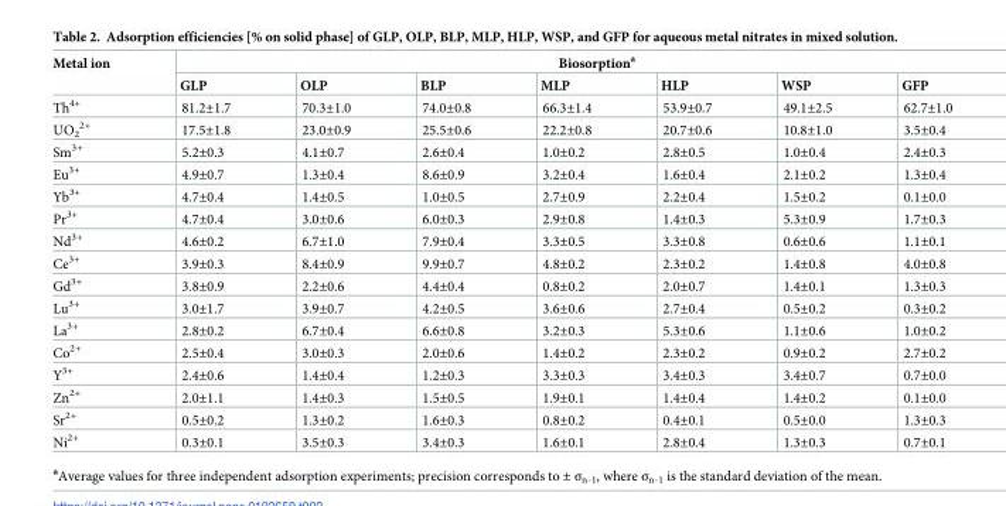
<table><thead><tr><td rowspan="2">Metal ion</td><td colspan="7">Biosorption<sup>a</sup></td></tr><tr><td>GLP</td><td>OLP</td><td>BLP</td><td>MLP</td><td>HLP</td><td>WSP</td><td>GFP</td></tr></thead><tbody><tr><td>Th<sup>4+</sup></td><td>81.2±1.7</td><td>70.3±1.0</td><td>74.0±0.8</td><td>66.3±1.4</td><td>53.9±0.7</td><td>49.1±2.5</td><td>62.7±1.0</td></tr><tr><td>UO<sub>2</sub> <sup>2+</sup></td><td>17.5±1.8</td><td>23.0±0.9</td><td>25.5±0.6</td><td>22.2±0.8</td><td>20.7±0.6</td><td>10.8±1.0</td><td>3.5±0.4</td></tr><tr><td>Sm<sup>3+</sup></td><td>5.2±0.3</td><td>4.1±0.7</td><td>2.6±0.4</td><td>1.0±0.2</td><td>2.8±0.5</td><td>1.0±0.4</td><td>2.4±0.3</td></tr><tr><td>Eu<sup>3+</sup></td><td>4.9±0.7</td><td>1.3±0.4</td><td>8.6±0.9</td><td>3.2±0.4</td><td>1.6±0.4</td><td>2.1±0.2</td><td>1.3±0.4</td></tr><tr><td>Yb<sup>3+</sup></td><td>4.7±0.4</td><td>1.4±0.5</td><td>1.0±0.5</td><td>2.7±0.9</td><td>2.2±0.4</td><td>1.5±0.2</td><td>0.1±0.0</td></tr><tr><td>Pr<sup>3+</sup></td><td>4.7±0.4</td><td>3.0±0.6</td><td>6.0±0.3</td><td>2.9±0.8</td><td>1.4±0.3</td><td>5.3±0.9</td><td>1.7±0.3</td></tr><tr><td>Nd<sup>3+</sup></td><td>4.6±0.2</td><td>6.7±1.0</td><td>7.9±0.4</td><td>3.3±0.5</td><td>3.3±0.8</td><td>0.6±0.6</td><td>1.1±0.1</td></tr><tr><td>Ce<sup>3+</sup></td><td>3.9±0.3</td><td>8.4±0.9</td><td>9.9±0.7</td><td>4.8±0.2</td><td>2.3±0.2</td><td>1.4±0.8</td><td>4.0±0.8</td></tr><tr><td>Gd<sup>3+</sup></td><td>3.8±0.9</td><td>2.2±0.6</td><td>4.4±0.4</td><td>0.8±0.2</td><td>2.0±0.7</td><td>1.4±0.1</td><td>1.3±0.3</td></tr><tr><td>Lu<sup>3+</sup></td><td>3.0±1.7</td><td>3.9±0.7</td><td>4.2±0.5</td><td>3.6±0.6</td><td>2.7±0.4</td><td>0.5±0.2</td><td>0.3±0.2</td></tr><tr><td>La<sup>3+</sup></td><td>2.8±0.2</td><td>6.7±0.4</td><td>6.6±0.8</td><td>3.2±0.3</td><td>5.3±0.6</td><td>1.1±0.6</td><td>1.0±0.2</td></tr><tr><td>Co<sup>2+</sup></td><td>2.5±0.4</td><td>3.0±0.3</td><td>2.0±0.6</td><td>1.4±0.2</td><td>2.3±0.2</td><td>0.9±0.2</td><td>2.7±0.2</td></tr><tr><td>Y<sup>3+</sup></td><td>2.4±0.6</td><td>1.4±0.4</td><td>1.2±0.3</td><td>3.3±0.3</td><td>3.4±0.3</td><td>3.4±0.7</td><td>0.7±0.0</td></tr><tr><td>Zn<sup>2+</sup></td><td>2.0±1.1</td><td>1.4±0.3</td><td>1.5±0.5</td><td>1.9±0.1</td><td>1.4±0.4</td><td>1.4±0.2</td><td>0.1±0.0</td></tr><tr><td>Sr<sup>2+</sup></td><td>0.5±0.2</td><td>1.3±0.2</td><td>1.6±0.3</td><td>0.8±0.2</td><td>0.4±0.1</td><td>0.5±0.0</td><td>1.3±0.3</td></tr><tr><td>Ni<sup>2+</sup></td><td>0.3±0.1</td><td>3.5±0.3</td><td>3.4±0.3</td><td>1.6±0.1</td><td>2.8±0.4</td><td>1.3±0.3</td><td>0.7±0.1</td></tr></tbody></table>